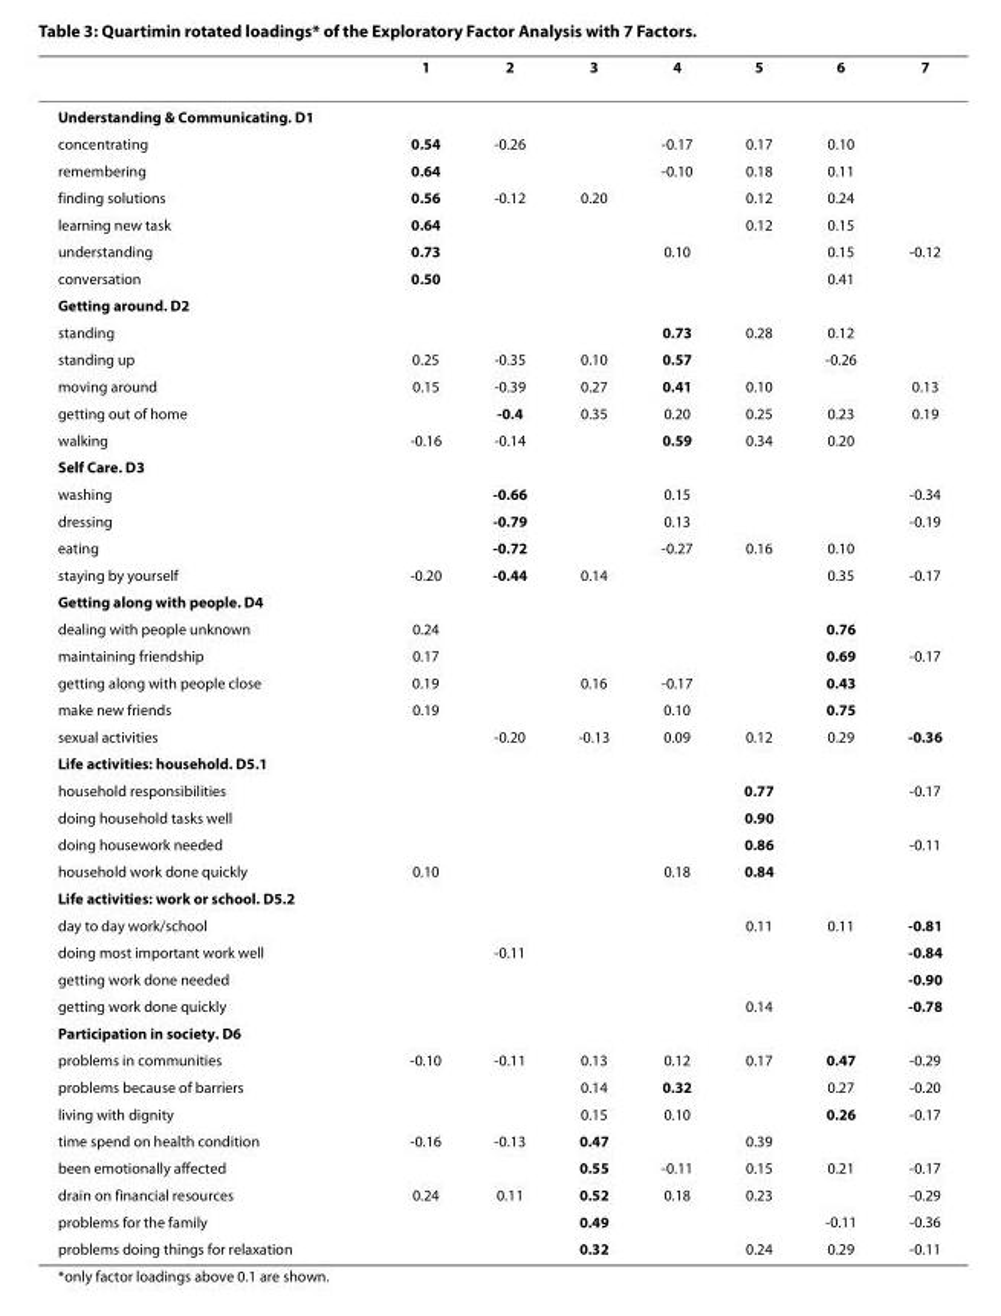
<table><thead><tr><td></td><td>1</td><td>2</td><td>3</td><td>4</td><td>5</td><td>6</td><td>7</td></tr></thead><tbody><tr><td colspan="8">Understanding &amp; Communicating. D1</td></tr><tr><td>concentrating</td><td>0.54</td><td>-0.26</td><td></td><td>-0.17</td><td>0.17</td><td>0.10</td><td></td></tr><tr><td>remembering</td><td>0.64</td><td></td><td></td><td>-0.10</td><td>0.18</td><td>0.11</td><td></td></tr><tr><td>finding solutions</td><td>0.56</td><td>-0.12</td><td>0.20</td><td></td><td>0.12</td><td>0.24</td><td></td></tr><tr><td>learning new task</td><td>0.64</td><td></td><td></td><td></td><td>0.12</td><td>0.15</td><td></td></tr><tr><td>understanding</td><td>0.73</td><td></td><td></td><td>0.10</td><td></td><td>0.15</td><td>-0.12</td></tr><tr><td>conversation</td><td>0.50</td><td></td><td></td><td></td><td></td><td>0.41</td><td></td></tr><tr><td colspan="8">Getting around. D2</td></tr><tr><td>standing</td><td></td><td></td><td></td><td>0.73</td><td>0.28</td><td>0.12</td><td></td></tr><tr><td>standing up</td><td>0.25</td><td>-0.35</td><td>0.10</td><td>0.57</td><td></td><td>-0.26</td><td></td></tr><tr><td>moving around</td><td>0.15</td><td>-0.39</td><td>0.27</td><td>0.41</td><td>0.10</td><td></td><td>0.13</td></tr><tr><td>getting out of home</td><td></td><td>-0.4</td><td>0.35</td><td>0.20</td><td>0.25</td><td>0.23</td><td>0.19</td></tr><tr><td>walking</td><td>-0.16</td><td>-0.14</td><td></td><td>0.59</td><td>0.34</td><td>0.20</td><td></td></tr><tr><td colspan="8">Self Care. D3</td></tr><tr><td>washing</td><td></td><td>-0.66</td><td></td><td>0.15</td><td></td><td></td><td>-0.34</td></tr><tr><td>dressing</td><td></td><td>-0.79</td><td></td><td>0.13</td><td></td><td></td><td>-0.19</td></tr><tr><td>eating</td><td></td><td>-0.72</td><td></td><td>-0.27</td><td>0.16</td><td>0.10</td><td></td></tr><tr><td>staying by yourself</td><td>-0.20</td><td>-0.44</td><td>0.14</td><td></td><td></td><td>0.35</td><td>-0.17</td></tr><tr><td colspan="8">Getting along with people. D4</td></tr><tr><td>dealing with people unknown</td><td>0.24</td><td></td><td></td><td></td><td></td><td>0.76</td><td></td></tr><tr><td>maintaining friendship</td><td>0.17</td><td></td><td></td><td></td><td></td><td>0.69</td><td>-0.17</td></tr><tr><td>getting along with people close</td><td>0.19</td><td></td><td>0.16</td><td>-0.17</td><td></td><td>0.43</td><td></td></tr><tr><td>make new friends</td><td>0.19</td><td></td><td></td><td>0.10</td><td></td><td>0.75</td><td></td></tr><tr><td>sexual activities</td><td></td><td>-0.20</td><td>-0.13</td><td>0.09</td><td>0.12</td><td>0.29</td><td>-0.36</td></tr><tr><td colspan="8">Life activities: household. D5.1</td></tr><tr><td>household responsibilities</td><td></td><td></td><td></td><td></td><td>0.77</td><td></td><td>-0.17</td></tr><tr><td>doing household tasks well</td><td></td><td></td><td></td><td></td><td>0.90</td><td></td><td></td></tr><tr><td>doing housework needed</td><td></td><td></td><td></td><td></td><td>0.86</td><td></td><td>-0.11</td></tr><tr><td>household work done quickly</td><td>0.10</td><td></td><td></td><td>0.18</td><td>0.84</td><td></td><td></td></tr><tr><td colspan="8">Life activities: work or school. D5.2</td></tr><tr><td>day to day work/school</td><td></td><td></td><td></td><td></td><td>0.11</td><td>0.11</td><td>-0.81</td></tr><tr><td>doing most important work well</td><td></td><td>-0.11</td><td></td><td></td><td></td><td></td><td>-0.84</td></tr><tr><td>getting work done needed</td><td></td><td></td><td></td><td></td><td></td><td></td><td>-0.90</td></tr><tr><td>getting work done quickly</td><td></td><td></td><td></td><td></td><td>0.14</td><td></td><td>-0.78</td></tr><tr><td colspan="8">Participation in society. D6</td></tr><tr><td>problems in communities</td><td>-0.10</td><td>-0.11</td><td>0.13</td><td>0.12</td><td>0.17</td><td>0.47</td><td>-0.29</td></tr><tr><td>problems because of barriers</td><td></td><td></td><td>0.14</td><td>0.32</td><td></td><td>0.27</td><td>-0.20</td></tr><tr><td>living with dignity</td><td></td><td></td><td>0.15</td><td>0.10</td><td></td><td>0.26</td><td>-0.17</td></tr><tr><td>time spend on health condition</td><td>-0.16</td><td>-0.13</td><td>0.47</td><td></td><td>0.39</td><td></td><td></td></tr><tr><td>been emotionally affected</td><td></td><td></td><td>0.55</td><td>-0.11</td><td>0.15</td><td>0.21</td><td>-0.17</td></tr><tr><td>drain on financial resources</td><td>0.24</td><td>0.11</td><td>0.52</td><td>0.18</td><td>0.23</td><td></td><td>-0.29</td></tr><tr><td>problems for the family</td><td></td><td></td><td>0.49</td><td></td><td></td><td>-0.11</td><td>-0.36</td></tr><tr><td>problems doing things for relaxation</td><td></td><td></td><td>0.32</td><td></td><td>0.24</td><td>0.29</td><td>-0.11</td></tr></tbody></table>